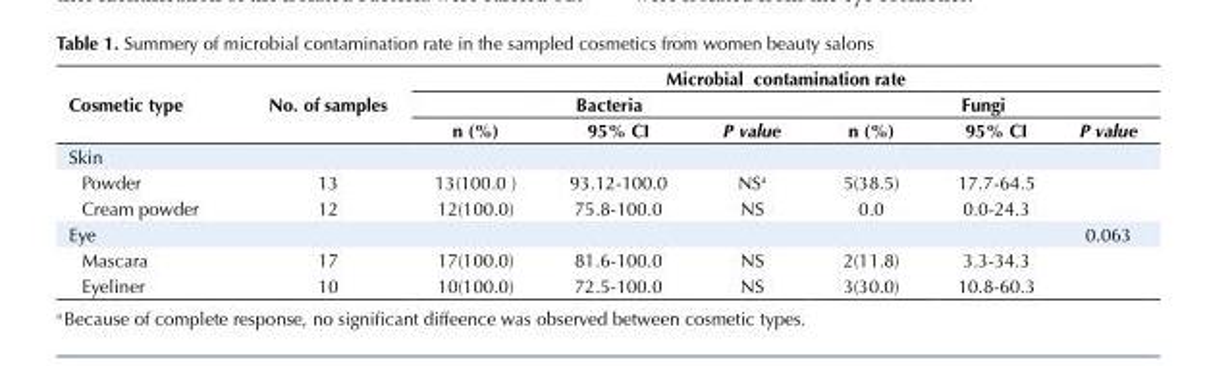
<table><tbody><tr><td rowspan="3">Cosmetic type</td><td rowspan="3">No. of samples</td><td colspan="6">Microbial contamination rate</td></tr><tr><td colspan="3">Bacteria</td><td colspan="3">Fungi</td></tr><tr><td>n (%)</td><td>95% CI</td><td>P value</td><td>n (%)</td><td>95% CI</td><td>P value</td></tr><tr><td colspan="8">Skin</td></tr><tr><td>Powder</td><td>13</td><td>13(100.0 )</td><td>93.12-100.0</td><td>NS<sup>a</sup></td><td>5(38.5)</td><td>17.7-64.5</td><td></td></tr><tr><td>Cream powder</td><td>12</td><td>12(100.0)</td><td>75.8-100.0</td><td>NS</td><td>0.0</td><td>0.0-24.3</td><td></td></tr><tr><td>Eye</td><td></td><td></td><td></td><td></td><td></td><td></td><td>0.063</td></tr><tr><td>Mascara</td><td>17</td><td>17(100.0)</td><td>81.6-100.0</td><td>NS</td><td>2(11.8)</td><td>3.3-34.3</td><td></td></tr><tr><td>Eyeliner</td><td>10</td><td>10(100.0)</td><td>72.5-100.0</td><td>NS</td><td>3(30.0)</td><td>10.8-60.3</td><td></td></tr></tbody></table>